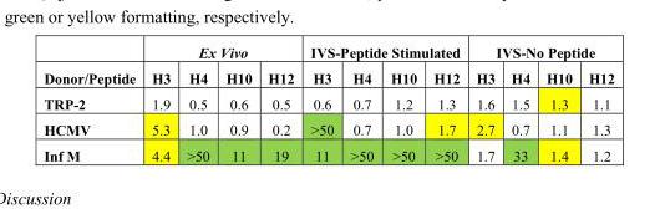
<table><thead><tr><td rowspan="2">Donor/Peptide</td><td colspan="4">Ex Vivo</td><td colspan="4">IVS-Peptide Stimulated</td><td colspan="4">IVS-No Peptide</td></tr><tr><td>H3</td><td>H4</td><td>H10</td><td>H12</td><td>H3</td><td>H4</td><td>H10</td><td>H12</td><td>H3</td><td>H4</td><td>H10</td><td>H12</td></tr></thead><tbody><tr><td>TRP-2</td><td>1.9</td><td>0.5</td><td>0.6</td><td>0.5</td><td>0.6</td><td>0.7</td><td>1.2</td><td>1.3</td><td>1.6</td><td>1.5</td><td>1.3</td><td>1.1</td></tr><tr><td>HCMV</td><td>5.3</td><td>1.0</td><td>0.9</td><td>0.2</td><td>&gt;50</td><td>0.7</td><td>1.0</td><td>1.7</td><td>2.7</td><td>0.7</td><td>1.1</td><td>1.3</td></tr><tr><td>Inf M</td><td>4.4</td><td>&gt;50</td><td>11</td><td>19</td><td>11</td><td>&gt;50</td><td>&gt;50</td><td>&gt;50</td><td>1.7</td><td>33</td><td>1.4</td><td>1.2</td></tr></tbody></table>